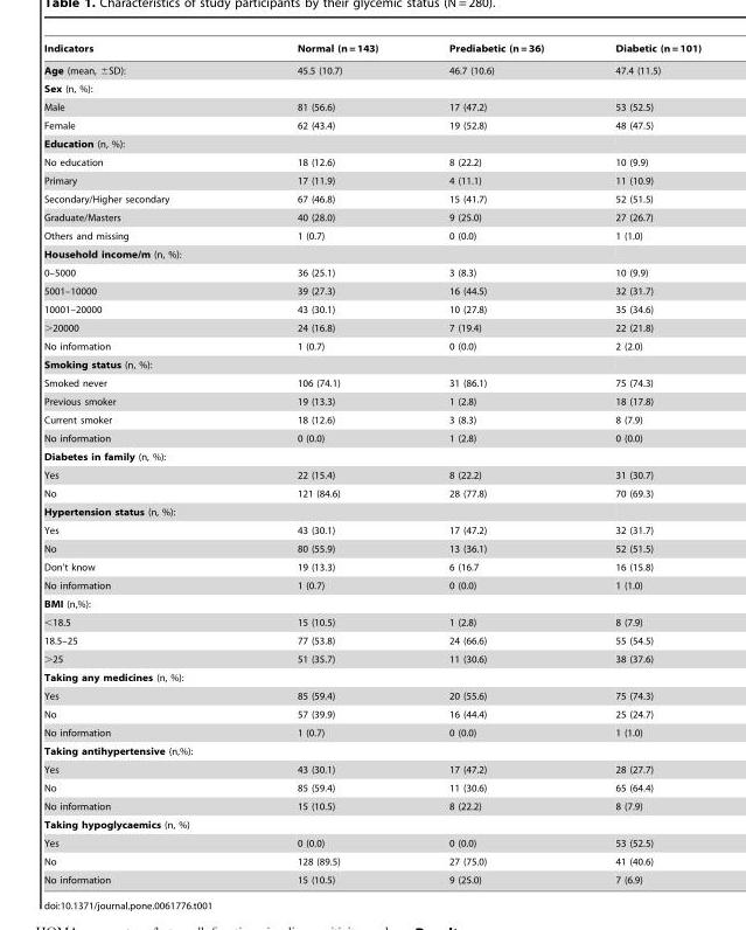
<table><thead><tr><td>Indicators</td><td>Normal (n = 143)</td><td>Prediabetic (n = 36)</td><td>Diabetic (n = 101)</td></tr></thead><tbody><tr><td>Age (mean, ±SD):</td><td>45.5 (10.7)</td><td>46.7 (10.6)</td><td>47.4 (11.5)</td></tr><tr><td colspan="4">Sex (n, %):</td></tr><tr><td>Male</td><td>81 (56.6)</td><td>17 (47.2)</td><td>53 (52.5)</td></tr><tr><td>Female</td><td>62 (43.4)</td><td>19 (52.8)</td><td>48 (47.5)</td></tr><tr><td colspan="4">Education (n, %):</td></tr><tr><td>No education</td><td>18 (12.6)</td><td>8 (22.2)</td><td>10 (9.9)</td></tr><tr><td>Primary</td><td>17 (11.9)</td><td>4 (11.1)</td><td>11 (10.9)</td></tr><tr><td>Secondary/Higher secondary</td><td>67 (46.8)</td><td>15 (41.7)</td><td>52 (51.5)</td></tr><tr><td>Graduate/Masters</td><td>40 (28.0)</td><td>9 (25.0)</td><td>27 (26.7)</td></tr><tr><td>Others and missing</td><td>1 (0.7)</td><td>0 (0.0)</td><td>1 (1.0)</td></tr><tr><td colspan="4">Household income/m (n, %):</td></tr><tr><td>0–5000</td><td>36 (25.1)</td><td>3 (8.3)</td><td>10 (9.9)</td></tr><tr><td>5001–10000</td><td>39 (27.3)</td><td>16 (44.5)</td><td>32 (31.7)</td></tr><tr><td>10001–20000</td><td>43 (30.1)</td><td>10 (27.8)</td><td>35 (34.6)</td></tr><tr><td>&gt;20000</td><td>24 (16.8)</td><td>7 (19.4)</td><td>22 (21.8)</td></tr><tr><td>No information</td><td>1 (0.7)</td><td>0 (0.0)</td><td>2 (2.0)</td></tr><tr><td colspan="4">Smoking status (n, %):</td></tr><tr><td>Smoked never</td><td>106 (74.1)</td><td>31 (86.1)</td><td>75 (74.3)</td></tr><tr><td>Previous smoker</td><td>19 (13.3)</td><td>1 (2.8)</td><td>18 (17.8)</td></tr><tr><td>Current smoker</td><td>18 (12.6)</td><td>3 (8.3)</td><td>8 (7.9)</td></tr><tr><td>No information</td><td>0 (0.0)</td><td>1 (2.8)</td><td>0 (0.0)</td></tr><tr><td colspan="4">Diabetes in family (n, %):</td></tr><tr><td>Yes</td><td>22 (15.4)</td><td>8 (22.2)</td><td>31 (30.7)</td></tr><tr><td>No</td><td>121 (84.6)</td><td>28 (77.8)</td><td>70 (69.3)</td></tr><tr><td colspan="4">Hypertension status (n, %):</td></tr><tr><td>Yes</td><td>43 (30.1)</td><td>17 (47.2)</td><td>32 (31.7)</td></tr><tr><td>No</td><td>80 (55.9)</td><td>13 (36.1)</td><td>52 (51.5)</td></tr><tr><td>Don’t know</td><td>19 (13.3)</td><td>6 (16.7</td><td>16 (15.8)</td></tr><tr><td>No information</td><td>1 (0.7)</td><td>0 (0.0)</td><td>1 (1.0)</td></tr><tr><td colspan="4">BMI (n,%):</td></tr><tr><td>&lt;18.5</td><td>15 (10.5)</td><td>1 (2.8)</td><td>8 (7.9)</td></tr><tr><td>18.5–25</td><td>77 (53.8)</td><td>24 (66.6)</td><td>55 (54.5)</td></tr><tr><td>&gt;25</td><td>51 (35.7)</td><td>11 (30.6)</td><td>38 (37.6)</td></tr><tr><td colspan="4">Taking any medicines (n, %):</td></tr><tr><td>Yes</td><td>85 (59.4)</td><td>20 (55.6)</td><td>75 (74.3)</td></tr><tr><td>No</td><td>57 (39.9)</td><td>16 (44.4)</td><td>25 (24.7)</td></tr><tr><td>No information</td><td>1 (0.7)</td><td>0 (0.0)</td><td>1 (1.0)</td></tr><tr><td colspan="4">Taking antihypertensive (n,%):</td></tr><tr><td>Yes</td><td>43 (30.1)</td><td>17 (47.2)</td><td>28 (27.7)</td></tr><tr><td>No</td><td>85 (59.4)</td><td>11 (30.6)</td><td>65 (64.4)</td></tr><tr><td>No information</td><td>15 (10.5)</td><td>8 (22.2)</td><td>8 (7.9)</td></tr><tr><td colspan="4">Taking hypoglycaemics (n, %)</td></tr><tr><td>Yes</td><td>0 (0.0)</td><td>0 (0.0)</td><td>53 (52.5)</td></tr><tr><td>No</td><td>128 (89.5)</td><td>27 (75.0)</td><td>41 (40.6)</td></tr><tr><td>No information</td><td>15 (10.5)</td><td>9 (25.0)</td><td>7 (6.9)</td></tr></tbody></table>